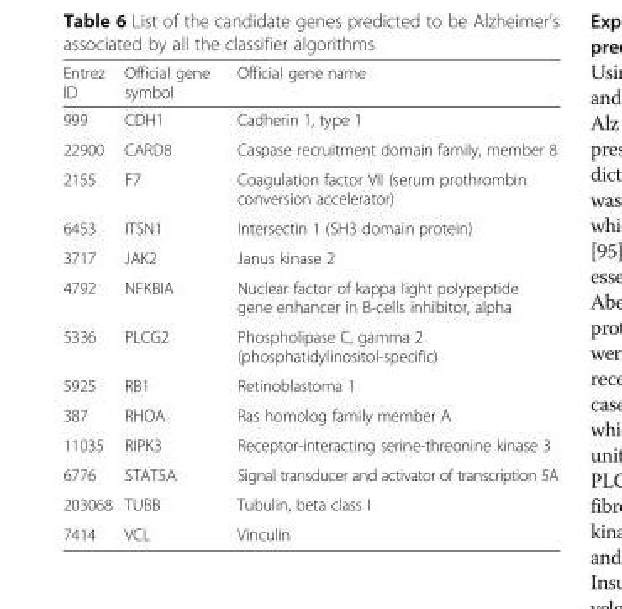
<table><thead><tr><td>Entrez ID</td><td>Official gene symbol</td><td>Official gene name</td></tr></thead><tbody><tr><td>999</td><td>CDH1</td><td>Cadherin 1, type 1</td></tr><tr><td>22900</td><td>CARD8</td><td>Caspase recruitment domain family, member 8</td></tr><tr><td>2155</td><td>F7</td><td>Coagulation factor VII (serum prothrombin conversion accelerator)</td></tr><tr><td>6453</td><td>ITSN1</td><td>Intersectin 1 (SH3 domain protein)</td></tr><tr><td>3717</td><td>JAK2</td><td>Janus kinase 2</td></tr><tr><td>4792</td><td>NFKBIA</td><td>Nuclear factor of kappa light polypeptide gene enhancer in B-cells inhibitor, alpha</td></tr><tr><td>5336</td><td>PLCG2</td><td>Phospholipase C, gamma 2 (phosphatidylinositol-specific)</td></tr><tr><td>5925</td><td>RB1</td><td>Retinoblastoma 1</td></tr><tr><td>387</td><td>RHOA</td><td>Ras homolog family member A</td></tr><tr><td>11035</td><td>RIPK3</td><td>Receptor-interacting serine-threonine kinase 3</td></tr><tr><td>6776</td><td>STAT5A</td><td>Signal transducer and activator of transcription 5A</td></tr><tr><td>203068</td><td>TUBB</td><td>Tubulin, beta class I</td></tr><tr><td>7414</td><td>VCL</td><td>Vinculin</td></tr></tbody></table>